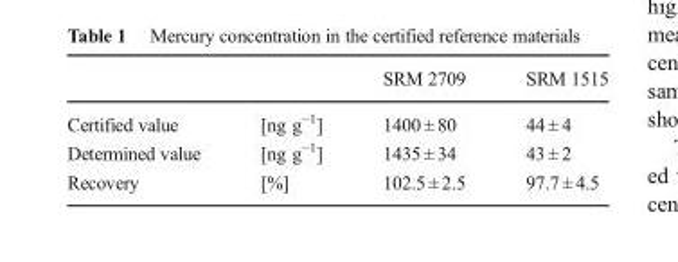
<table><thead><tr><td></td><td></td><td>SRM 2709</td><td>SRM 1515</td></tr></thead><tbody><tr><td>Certified value</td><td>[ng g<sup>−1</sup>]</td><td>1400 ± 80</td><td>44 ± 4</td></tr><tr><td>Determined value</td><td>[ng g<sup>−1</sup>]</td><td>1435 ± 34</td><td>43 ± 2</td></tr><tr><td>Recovery</td><td>[%]</td><td>102.5 ± 2.5</td><td>97.7 ± 4.5</td></tr></tbody></table>